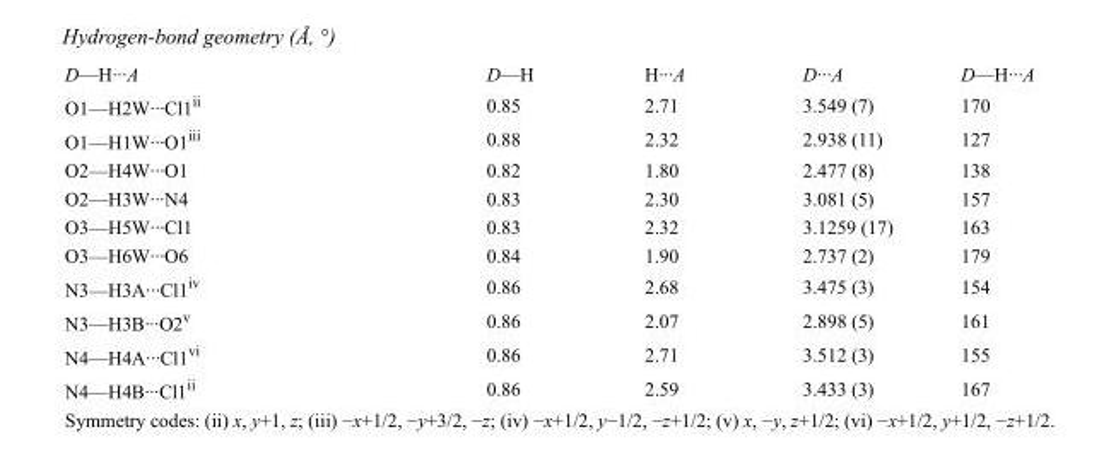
<table><tbody><tr><td>D—H···A</td><td>D—H</td><td>H···A</td><td>D···A</td><td>D—H···A</td></tr><tr><td>O1—H2W···Cl1<sup>ii</sup></td><td>0.85</td><td>2.71</td><td>3.549 (7)</td><td>170</td></tr><tr><td>O1—H1W···O1<sup>iii</sup></td><td>0.88</td><td>2.32</td><td>2.938 (11)</td><td>127</td></tr><tr><td>O2—H4W···O1</td><td>0.82</td><td>1.80</td><td>2.477 (8)</td><td>138</td></tr><tr><td>O2—H3W···N4</td><td>0.83</td><td>2.30</td><td>3.081 (5)</td><td>157</td></tr><tr><td>O3—H5W···Cl1</td><td>0.83</td><td>2.32</td><td>3.1259 (17)</td><td>163</td></tr><tr><td>O3—H6W···O6</td><td>0.84</td><td>1.90</td><td>2.737 (2)</td><td>179</td></tr><tr><td>N3—H3A···Cl1<sup>iv</sup></td><td>0.86</td><td>2.68</td><td>3.475 (3)</td><td>154</td></tr><tr><td>N3—H3B···O2<sup>v</sup></td><td>0.86</td><td>2.07</td><td>2.898 (5)</td><td>161</td></tr><tr><td>N4—H4A···Cl1<sup>vi</sup></td><td>0.86</td><td>2.71</td><td>3.512 (3)</td><td>155</td></tr><tr><td>N4—H4B···Cl1<sup>ii</sup></td><td>0.86</td><td>2.59</td><td>3.433 (3)</td><td>167</td></tr></tbody></table>